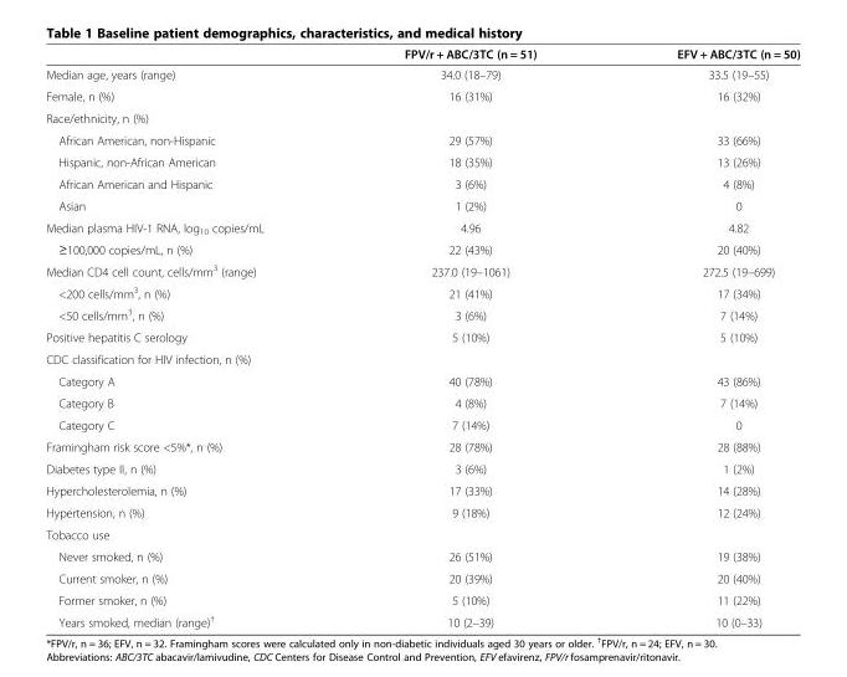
<table><thead><tr><td></td><td>FPV/r + ABC/3TC (n = 51)</td><td>EFV + ABC/3TC (n = 50)</td></tr></thead><tbody><tr><td>Median age, years (range)</td><td>34.0 (18–79)</td><td>33.5 (19–55)</td></tr><tr><td>Female, n (%)</td><td>16 (31%)</td><td>16 (32%)</td></tr><tr><td colspan="3">Race/ethnicity, n (%)</td></tr><tr><td>African American, non-Hispanic</td><td>29 (57%)</td><td>33 (66%)</td></tr><tr><td>Hispanic, non-African American</td><td>18 (35%)</td><td>13 (26%)</td></tr><tr><td>African American and Hispanic</td><td>3 (6%)</td><td>4 (8%)</td></tr><tr><td>Asian</td><td>1 (2%)</td><td>0</td></tr><tr><td>Median plasma HIV-1 RNA, log<sub>10</sub> copies/mL</td><td>4.96</td><td>4.82</td></tr><tr><td>≥100,000 copies/mL, n (%)</td><td>22 (43%)</td><td>20 (40%)</td></tr><tr><td>Median CD4 cell count, cells/mm<sup>3</sup> (range)</td><td>237.0 (19–1061)</td><td>272.5 (19–699)</td></tr><tr><td>&lt;200 cells/mm<sup>3</sup>, n (%)</td><td>21 (41%)</td><td>17 (34%)</td></tr><tr><td>&lt;50 cells/mm<sup>3</sup>, n (%)</td><td>3 (6%)</td><td>7 (14%)</td></tr><tr><td>Positive hepatitis C serology</td><td>5 (10%)</td><td>5 (10%)</td></tr><tr><td colspan="3">CDC classification for HIV infection, n (%)</td></tr><tr><td>Category A</td><td>40 (78%)</td><td>43 (86%)</td></tr><tr><td>Category B</td><td>4 (8%)</td><td>7 (14%)</td></tr><tr><td>Category C</td><td>7 (14%)</td><td>0</td></tr><tr><td>Framingham risk score &lt;5%*, n (%)</td><td>28 (78%)</td><td>28 (88%)</td></tr><tr><td>Diabetes type II, n (%)</td><td>3 (6%)</td><td>1 (2%)</td></tr><tr><td>Hypercholesterolemia, n (%)</td><td>17 (33%)</td><td>14 (28%)</td></tr><tr><td>Hypertension, n (%)</td><td>9 (18%)</td><td>12 (24%)</td></tr><tr><td colspan="3">Tobacco use</td></tr><tr><td>Never smoked, n (%)</td><td>26 (51%)</td><td>19 (38%)</td></tr><tr><td>Current smoker, n (%)</td><td>20 (39%)</td><td>20 (40%)</td></tr><tr><td>Former smoker, n (%)</td><td>5 (10%)</td><td>11 (22%)</td></tr><tr><td>Years smoked, median (range)<sup>†</sup></td><td>10 (2–39)</td><td>10 (0–33)</td></tr></tbody></table>